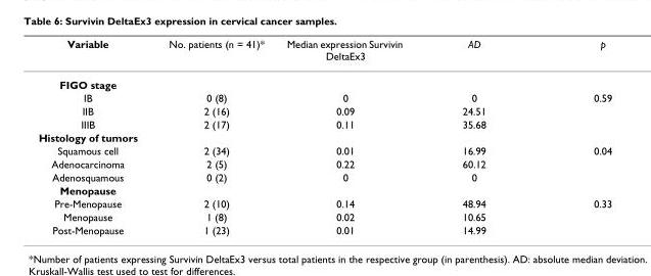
<table><thead><tr><td>Variable</td><td>No. patients (n = 41)*</td><td>Median expression Survivin DeltaEx3</td><td>AD</td><td>p</td></tr></thead><tbody><tr><td colspan="5">FIGO stage</td></tr><tr><td>IB</td><td>0 (8)</td><td>0</td><td>0</td><td>0.59</td></tr><tr><td>IIB</td><td>2 (16)</td><td>0.09</td><td>24.51</td><td></td></tr><tr><td>IIIB</td><td>2 (17)</td><td>0.11</td><td>35.68</td><td></td></tr><tr><td colspan="5">Histology of tumors</td></tr><tr><td>Squamous cell</td><td>2 (34)</td><td>0.01</td><td>16.99</td><td>0.04</td></tr><tr><td>Adenocarcinoma</td><td>2 (5)</td><td>0.22</td><td>60.12</td><td></td></tr><tr><td>Adenosquamous</td><td>0 (2)</td><td>0</td><td>0</td><td></td></tr><tr><td colspan="5">Menopause</td></tr><tr><td>Pre-Menopause</td><td>2 (10)</td><td>0.14</td><td>48.94</td><td>0.33</td></tr><tr><td>Menopause</td><td>1 (8)</td><td>0.02</td><td>10.65</td><td></td></tr><tr><td>Post-Menopause</td><td>1 (23)</td><td>0.01</td><td>14.99</td><td></td></tr></tbody></table>